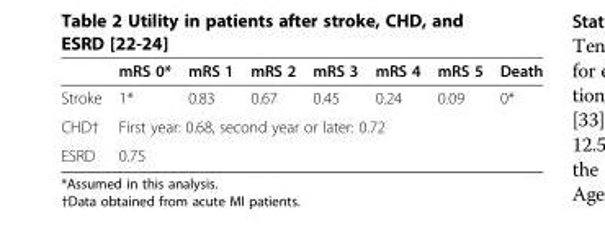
<table><thead><tr><td></td><td>mRS 0*</td><td>mRS 1</td><td>mRS 2</td><td>mRS 3</td><td>mRS 4</td><td>mRS 5</td><td>Death</td></tr></thead><tbody><tr><td>Stroke</td><td>1*</td><td>0.83</td><td>0.67</td><td>0.45</td><td>0.24</td><td>0.09</td><td>0*</td></tr><tr><td>CHD†</td><td colspan="7">First year: 0.68, second year or later: 0.72</td></tr><tr><td>ESRD</td><td colspan="7">0.75</td></tr></tbody></table>